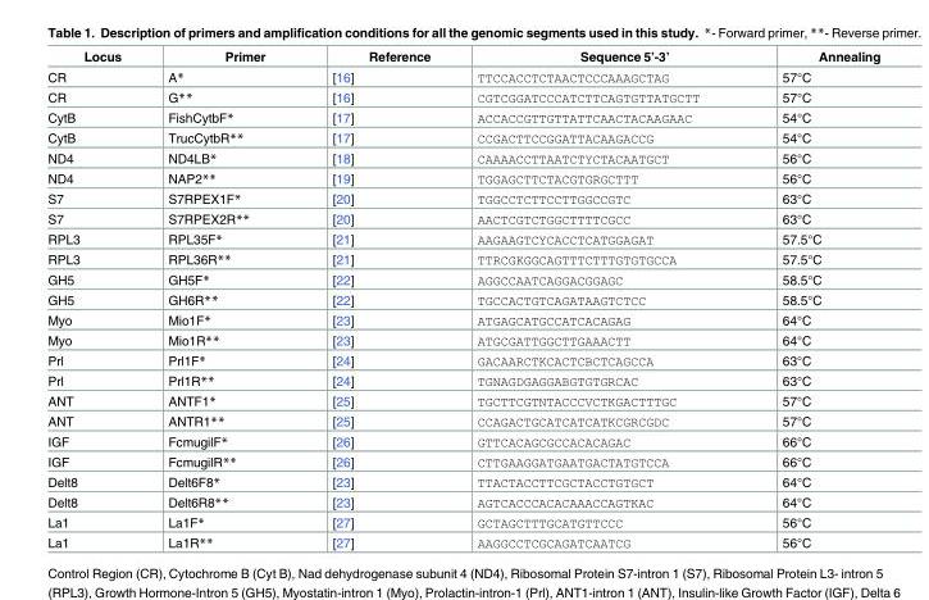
<table><thead><tr><td>Locus</td><td>Primer</td><td>Reference</td><td>Sequence 5’-3’</td><td>Annealing</td></tr></thead><tbody><tr><td>CR</td><td>A*</td><td>[16]</td><td>TTCCACCTCTAACTCCCAAAGCTAG</td><td>57°C</td></tr><tr><td>CR</td><td>G**</td><td>[16]</td><td>CGTCGGATCCCATCTTCAGTGTTATGCTT</td><td>57°C</td></tr><tr><td>CytB</td><td>FishCytbF*</td><td>[17]</td><td>ACCACCGTTGTTATTCAACTACAAGAAC</td><td>54°C</td></tr><tr><td>CytB</td><td>TrucCytbR**</td><td>[17]</td><td>CCGACTTCCGGATTACAAGACCG</td><td>54°C</td></tr><tr><td>ND4</td><td>ND4LB*</td><td>[18]</td><td>CAAAACCTTAATCTYCTACAATGCT</td><td>56°C</td></tr><tr><td>ND4</td><td>NAP2**</td><td>[19]</td><td>TGGAGCTTCTACGTGRGCTTT</td><td>56°C</td></tr><tr><td>S7</td><td>S7RPEX1F*</td><td>[20]</td><td>TGGCCTCTTCCTTGGCCGTC</td><td>63°C</td></tr><tr><td>S7</td><td>S7RPEX2R**</td><td>[20]</td><td>AACTCGTCTGGCTTTTCGCC</td><td>63°C</td></tr><tr><td>RPL3</td><td>RPL35F*</td><td>[21]</td><td>AAGAAGTCYCACCTCATGGAGAT</td><td>57.5°C</td></tr><tr><td>RPL3</td><td>RPL36R**</td><td>[21]</td><td>TTRCGKGGCAGTTTCTTTGTGTGCCA</td><td>57.5°C</td></tr><tr><td>GH5</td><td>GH5F*</td><td>[22]</td><td>AGGCCAATCAGGACGGAGC</td><td>58.5°C</td></tr><tr><td>GH5</td><td>GH6R**</td><td>[22]</td><td>TGCCACTGTCAGATAAGTCTCC</td><td>58.5°C</td></tr><tr><td>Myo</td><td>Mio1F*</td><td>[23]</td><td>ATGAGCATGCCATCACAGAG</td><td>64°C</td></tr><tr><td>Myo</td><td>Mio1R**</td><td>[23]</td><td>ATGCGATTGGCTTGAAACTT</td><td>64°C</td></tr><tr><td>Prl</td><td>Prl1F*</td><td>[24]</td><td>GACAARCTKCACTCBCTCAGCCA</td><td>63°C</td></tr><tr><td>Prl</td><td>Prl1R**</td><td>[24]</td><td>TGNAGDGAGGABGTGTGRCAC</td><td>63°C</td></tr><tr><td>ANT</td><td>ANTF1*</td><td>[25]</td><td>TGCTTCGTNTACCCVCTKGACTTTGC</td><td>57°C</td></tr><tr><td>ANT</td><td>ANTR1**</td><td>[25]</td><td>CCAGACTGCATCATCATKCGRCGDC</td><td>57°C</td></tr><tr><td>IGF</td><td>FcmugilF*</td><td>[26]</td><td>GTTCACAGCGCCACACAGAC</td><td>66°C</td></tr><tr><td>IGF</td><td>FcmugilR**</td><td>[26]</td><td>CTTGAAGGATGAATGACTATGTCCA</td><td>66°C</td></tr><tr><td>Delt8</td><td>Delt6F8*</td><td>[23]</td><td>TTACTACCTTCGCTACCTGTGCT</td><td>64°C</td></tr><tr><td>Delt8</td><td>Delt6R8**</td><td>[23]</td><td>AGTCACCCACACAAACCAGTKAC</td><td>64°C</td></tr><tr><td>La1</td><td>La1F*</td><td>[27]</td><td>GCTAGCTTTGCATGTTCCC</td><td>56°C</td></tr><tr><td>La1</td><td>La1R**</td><td>[27]</td><td>AAGGCCTCGCAGATCAATCG</td><td>56°C</td></tr></tbody></table>